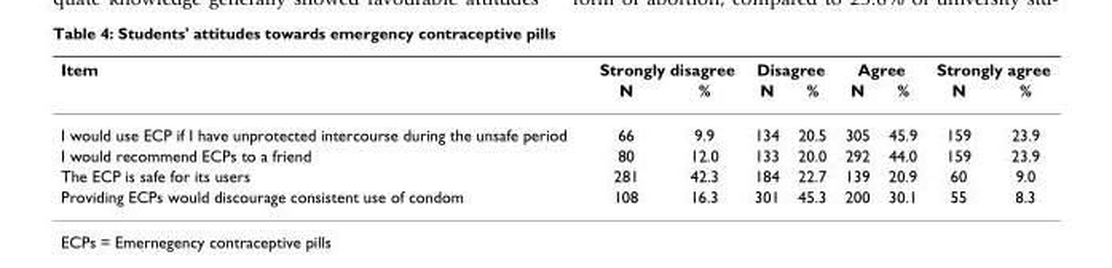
<table><thead><tr><td rowspan="2">Item</td><td colspan="2">Strongly disagree</td><td colspan="2">Disagree</td><td colspan="2">Agree</td><td colspan="2">Strongly agree</td></tr><tr><td>N</td><td>%</td><td>N</td><td>%</td><td>N</td><td>%</td><td>N</td><td>%</td></tr></thead><tbody><tr><td>I would use ECP if I have unprotected intercourse during the unsafe period</td><td>66</td><td>9.9</td><td>134</td><td>20.5</td><td>305</td><td>45.9</td><td>159</td><td>23.9</td></tr><tr><td>I would recommend ECPs to a friend</td><td>80</td><td>12.0</td><td>133</td><td>20.0</td><td>292</td><td>44.0</td><td>159</td><td>23.9</td></tr><tr><td>The ECP is safe for its users</td><td>281</td><td>42.3</td><td>184</td><td>22.7</td><td>139</td><td>20.9</td><td>60</td><td>9.0</td></tr><tr><td>Providing ECPs would discourage consistent use of condom</td><td>108</td><td>16.3</td><td>301</td><td>45.3</td><td>200</td><td>30.1</td><td>55</td><td>8.3</td></tr></tbody></table>